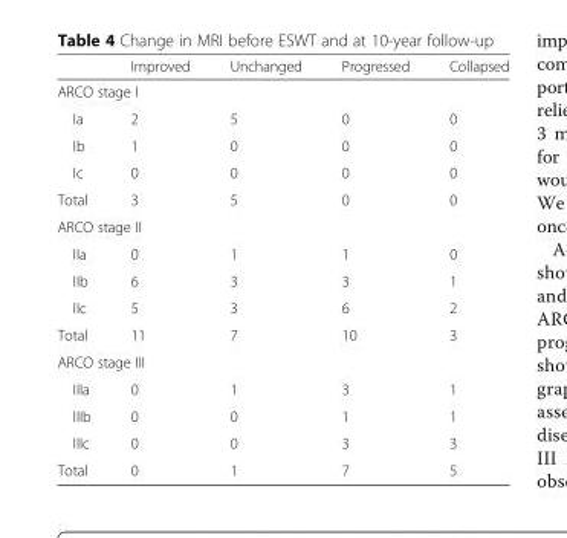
<table><thead><tr><td></td><td>Improved</td><td>Unchanged</td><td>Progressed</td><td>Collapsed</td></tr></thead><tbody><tr><td colspan="5">ARCO stage I</td></tr><tr><td>Ia</td><td>2</td><td>5</td><td>0</td><td>0</td></tr><tr><td>Ib</td><td>1</td><td>0</td><td>0</td><td>0</td></tr><tr><td>Ic</td><td>0</td><td>0</td><td>0</td><td>0</td></tr><tr><td>Total</td><td>3</td><td>5</td><td>0</td><td>0</td></tr><tr><td colspan="5">ARCO stage II</td></tr><tr><td>IIa</td><td>0</td><td>1</td><td>1</td><td>0</td></tr><tr><td>IIb</td><td>6</td><td>3</td><td>3</td><td>1</td></tr><tr><td>IIc</td><td>5</td><td>3</td><td>6</td><td>2</td></tr><tr><td>Total</td><td>11</td><td>7</td><td>10</td><td>3</td></tr><tr><td colspan="5">ARCO stage III</td></tr><tr><td>IIIa</td><td>0</td><td>1</td><td>3</td><td>1</td></tr><tr><td>IIIb</td><td>0</td><td>0</td><td>1</td><td>1</td></tr><tr><td>IIIc</td><td>0</td><td>0</td><td>3</td><td>3</td></tr><tr><td>Total</td><td>0</td><td>1</td><td>7</td><td>5</td></tr></tbody></table>